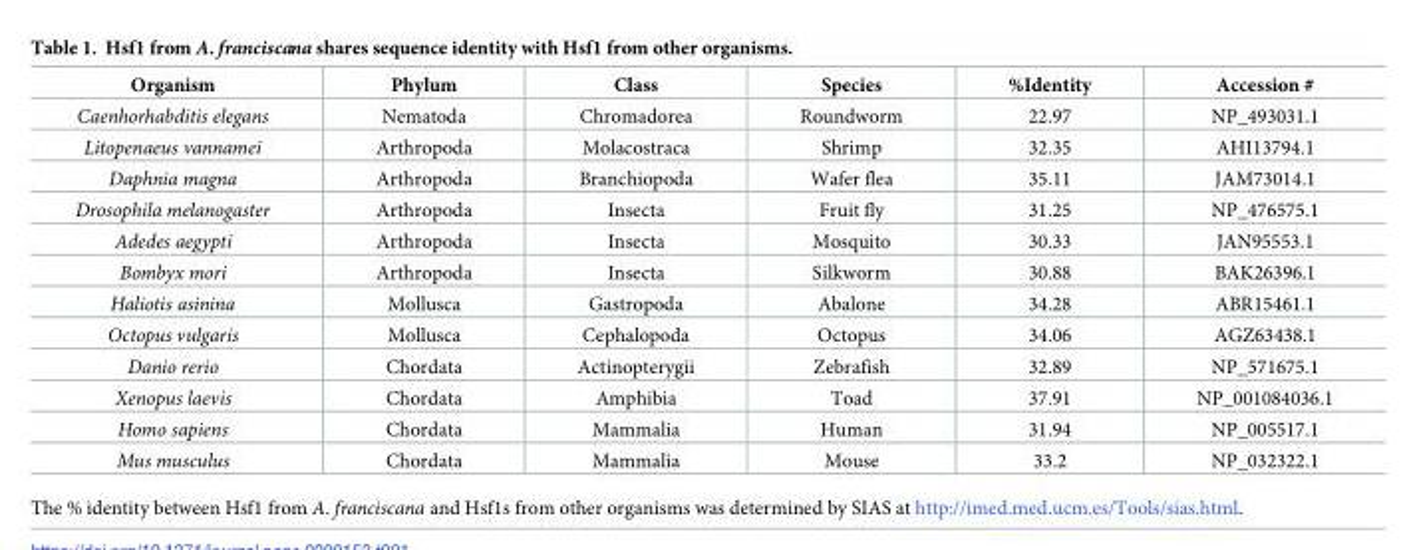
<table><thead><tr><td>Organism</td><td>Phylum</td><td>Class</td><td>Species</td><td>%Identity</td><td>Accession #</td></tr></thead><tbody><tr><td>Caenhorhabditis elegans</td><td>Nematoda</td><td>Chromadorea</td><td>Roundworm</td><td>22.97</td><td>NP_493031.1</td></tr><tr><td>Litopenaeus vannamei</td><td>Arthropoda</td><td>Molacostraca</td><td>Shrimp</td><td>32.35</td><td>AHI13794.1</td></tr><tr><td>Daphnia magna</td><td>Arthropoda</td><td>Branchiopoda</td><td>Wafer flea</td><td>35.11</td><td>JAM73014.1</td></tr><tr><td>Drosophila melanogaster</td><td>Arthropoda</td><td>Insecta</td><td>Fruit fly</td><td>31.25</td><td>NP_476575.1</td></tr><tr><td>Adedes aegypti</td><td>Arthropoda</td><td>Insecta</td><td>Mosquito</td><td>30.33</td><td>JAN95553.1</td></tr><tr><td>Bombyx mori</td><td>Arthropoda</td><td>Insecta</td><td>Silkworm</td><td>30.88</td><td>BAK26396.1</td></tr><tr><td>Haliotis asinina</td><td>Mollusca</td><td>Gastropoda</td><td>Abalone</td><td>34.28</td><td>ABR15461.1</td></tr><tr><td>Octopus vulgaris</td><td>Mollusca</td><td>Cephalopoda</td><td>Octopus</td><td>34.06</td><td>AGZ63438.1</td></tr><tr><td>Danio rerio</td><td>Chordata</td><td>Actinopterygii</td><td>Zebrafish</td><td>32.89</td><td>NP_571675.1</td></tr><tr><td>Xenopus laevis</td><td>Chordata</td><td>Amphibia</td><td>Toad</td><td>37.91</td><td>NP_001084036.1</td></tr><tr><td>Homo sapiens</td><td>Chordata</td><td>Mammalia</td><td>Human</td><td>31.94</td><td>NP_005517.1</td></tr><tr><td>Mus musculus</td><td>Chordata</td><td>Mammalia</td><td>Mouse</td><td>33.2</td><td>NP_032322.1</td></tr></tbody></table>